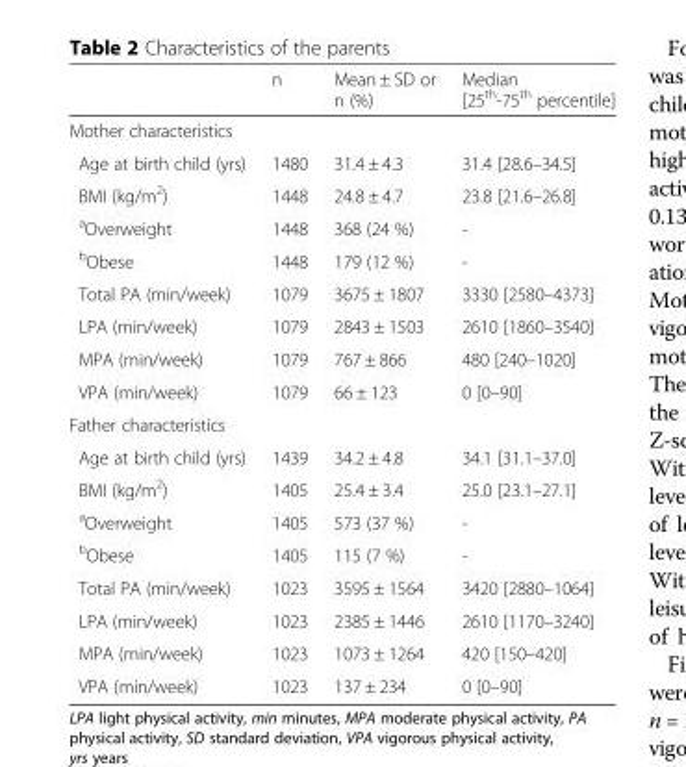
<table><thead><tr><td></td><td>n</td><td>Mean ± SD or n (%)</td><td>Median [25<sup>th</sup>-75<sup>th</sup> percentile]</td></tr></thead><tbody><tr><td colspan="4">Mother characteristics</td></tr><tr><td>Age at birth child (yrs)</td><td>1480</td><td>31.4 ± 4.3</td><td>31.4 [28.6–34.5]</td></tr><tr><td>BMI (kg/m<sup>2</sup>)</td><td>1448</td><td>24.8 ± 4.7</td><td>23.8 [21.6–26.8]</td></tr><tr><td><sup>a</sup>Overweight</td><td>1448</td><td>368 (24 %)</td><td>-</td></tr><tr><td><sup>b</sup>Obese</td><td>1448</td><td>179 (12 %)</td><td>-</td></tr><tr><td>Total PA (min/week)</td><td>1079</td><td>3675 ± 1807</td><td>3330 [2580–4373]</td></tr><tr><td>LPA (min/week)</td><td>1079</td><td>2843 ± 1503</td><td>2610 [1860–3540]</td></tr><tr><td>MPA (min/week)</td><td>1079</td><td>767 ± 866</td><td>480 [240–1020]</td></tr><tr><td>VPA (min/week)</td><td>1079</td><td>66 ± 123</td><td>0 [0–90]</td></tr><tr><td colspan="4">Father characteristics</td></tr><tr><td>Age at birth child (yrs)</td><td>1439</td><td>34.2 ± 4.8</td><td>34.1 [31.1–37.0]</td></tr><tr><td>BMI (kg/m<sup>2</sup>)</td><td>1405</td><td>25.4 ± 3.4</td><td>25.0 [23.1–27.1]</td></tr><tr><td><sup>a</sup>Overweight</td><td>1405</td><td>573 (37 %)</td><td>-</td></tr><tr><td><sup>b</sup>Obese</td><td>1405</td><td>115 (7 %)</td><td>-</td></tr><tr><td>Total PA (min/week)</td><td>1023</td><td>3595 ± 1564</td><td>3420 [2880–1064]</td></tr><tr><td>LPA (min/week)</td><td>1023</td><td>2385 ± 1446</td><td>2610 [1170–3240]</td></tr><tr><td>MPA (min/week)</td><td>1023</td><td>1073 ± 1264</td><td>420 [150–420]</td></tr><tr><td>VPA (min/week)</td><td>1023</td><td>137 ± 234</td><td>0 [0–90]</td></tr></tbody></table>